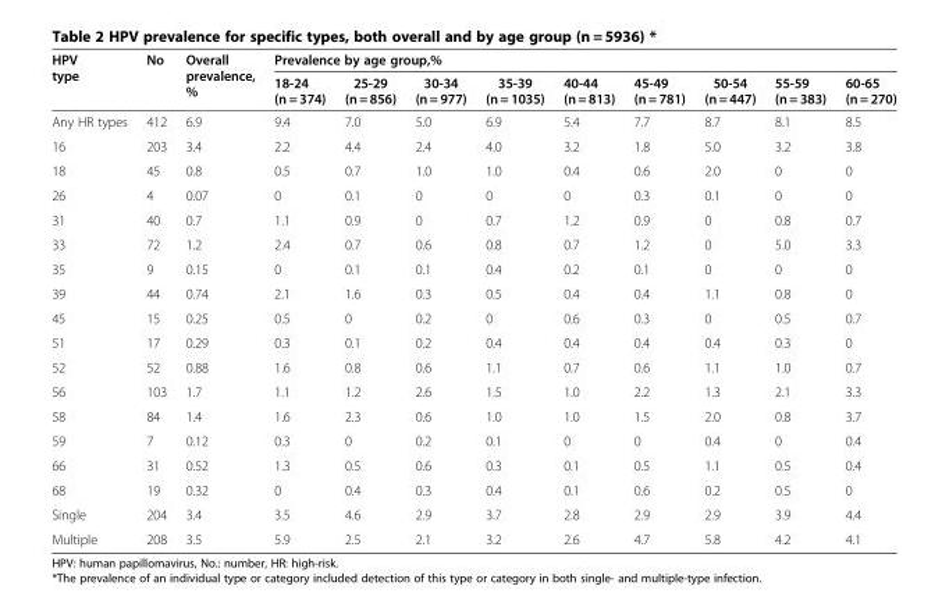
<table><thead><tr><td rowspan="2">HPV type</td><td rowspan="2">No</td><td rowspan="2">Overall prevalence, %</td><td colspan="9">Prevalence by age group,%</td></tr><tr><td>18-24 (n = 374)</td><td>25-29 (n = 856)</td><td>30-34 (n = 977)</td><td>35-39 (n = 1035)</td><td>40-44 (n = 813)</td><td>45-49 (n = 781)</td><td>50-54 (n = 447)</td><td>55-59 (n = 383)</td><td>60-65 (n = 270)</td></tr></thead><tbody><tr><td>Any HR types</td><td>412</td><td>6.9</td><td>9.4</td><td>7.0</td><td>5.0</td><td>6.9</td><td>5.4</td><td>7.7</td><td>8.7</td><td>8.1</td><td>8.5</td></tr><tr><td>16</td><td>203</td><td>3.4</td><td>2.2</td><td>4.4</td><td>2.4</td><td>4.0</td><td>3.2</td><td>1.8</td><td>5.0</td><td>3.2</td><td>3.8</td></tr><tr><td>18</td><td>45</td><td>0.8</td><td>0.5</td><td>0.7</td><td>1.0</td><td>1.0</td><td>0.4</td><td>0.6</td><td>2.0</td><td>0</td><td>0</td></tr><tr><td>26</td><td>4</td><td>0.07</td><td>0</td><td>0.1</td><td>0</td><td>0</td><td>0</td><td>0.3</td><td>0.1</td><td>0</td><td>0</td></tr><tr><td>31</td><td>40</td><td>0.7</td><td>1.1</td><td>0.9</td><td>0</td><td>0.7</td><td>1.2</td><td>0.9</td><td>0</td><td>0.8</td><td>0.7</td></tr><tr><td>33</td><td>72</td><td>1.2</td><td>2.4</td><td>0.7</td><td>0.6</td><td>0.8</td><td>0.7</td><td>1.2</td><td>0</td><td>5.0</td><td>3.3</td></tr><tr><td>35</td><td>9</td><td>0.15</td><td>0</td><td>0.1</td><td>0.1</td><td>0.4</td><td>0.2</td><td>0.1</td><td>0</td><td>0</td><td>0</td></tr><tr><td>39</td><td>44</td><td>0.74</td><td>2.1</td><td>1.6</td><td>0.3</td><td>0.5</td><td>0.4</td><td>0.4</td><td>1.1</td><td>0.8</td><td>0</td></tr><tr><td>45</td><td>15</td><td>0.25</td><td>0.5</td><td>0</td><td>0.2</td><td>0</td><td>0.6</td><td>0.3</td><td>0</td><td>0.5</td><td>0.7</td></tr><tr><td>51</td><td>17</td><td>0.29</td><td>0.3</td><td>0.1</td><td>0.2</td><td>0.4</td><td>0.4</td><td>0.4</td><td>0.4</td><td>0.3</td><td>0</td></tr><tr><td>52</td><td>52</td><td>0.88</td><td>1.6</td><td>0.8</td><td>0.6</td><td>1.1</td><td>0.7</td><td>0.6</td><td>1.1</td><td>1.0</td><td>0.7</td></tr><tr><td>56</td><td>103</td><td>1.7</td><td>1.1</td><td>1.2</td><td>2.6</td><td>1.5</td><td>1.0</td><td>2.2</td><td>1.3</td><td>2.1</td><td>3.3</td></tr><tr><td>58</td><td>84</td><td>1.4</td><td>1.6</td><td>2.3</td><td>0.6</td><td>1.0</td><td>1.0</td><td>1.5</td><td>2.0</td><td>0.8</td><td>3.7</td></tr><tr><td>59</td><td>7</td><td>0.12</td><td>0.3</td><td>0</td><td>0.2</td><td>0.1</td><td>0</td><td>0</td><td>0.4</td><td>0</td><td>0.4</td></tr><tr><td>66</td><td>31</td><td>0.52</td><td>1.3</td><td>0.5</td><td>0.6</td><td>0.3</td><td>0.1</td><td>0.5</td><td>1.1</td><td>0.5</td><td>0.4</td></tr><tr><td>68</td><td>19</td><td>0.32</td><td>0</td><td>0.4</td><td>0.3</td><td>0.4</td><td>0.1</td><td>0.6</td><td>0.2</td><td>0.5</td><td>0</td></tr><tr><td>Single</td><td>204</td><td>3.4</td><td>3.5</td><td>4.6</td><td>2.9</td><td>3.7</td><td>2.8</td><td>2.9</td><td>2.9</td><td>3.9</td><td>4.4</td></tr><tr><td>Multiple</td><td>208</td><td>3.5</td><td>5.9</td><td>2.5</td><td>2.1</td><td>3.2</td><td>2.6</td><td>4.7</td><td>5.8</td><td>4.2</td><td>4.1</td></tr></tbody></table>